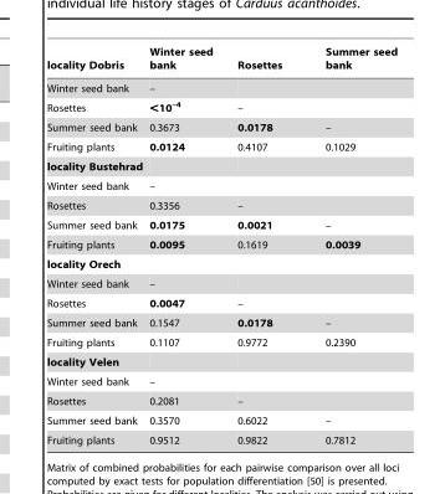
<table><thead><tr><td>locality Dobris</td><td>Winter seed bank</td><td>Rosettes</td><td>Summer seed bank</td></tr></thead><tbody><tr><td>Winter seed bank</td><td>–</td><td></td><td></td></tr><tr><td>Rosettes</td><td>&lt;10<sup>–4</sup></td><td>–</td><td></td></tr><tr><td>Summer seed bank</td><td>0.3673</td><td>0.0178</td><td>–</td></tr><tr><td>Fruiting plants</td><td>0.0124</td><td>0.4107</td><td>0.1029</td></tr><tr><td colspan="4">locality Bustehrad</td></tr><tr><td>Winter seed bank</td><td>–</td><td></td><td></td></tr><tr><td>Rosettes</td><td>0.3356</td><td>–</td><td></td></tr><tr><td>Summer seed bank</td><td>0.0175</td><td>0.0021</td><td>–</td></tr><tr><td>Fruiting plants</td><td>0.0095</td><td>0.1619</td><td>0.0039</td></tr><tr><td colspan="4">locality Orech</td></tr><tr><td>Winter seed bank</td><td>–</td><td></td><td></td></tr><tr><td>Rosettes</td><td>0.0047</td><td>–</td><td></td></tr><tr><td>Summer seed bank</td><td>0.1547</td><td>0.0178</td><td>–</td></tr><tr><td>Fruiting plants</td><td>0.1107</td><td>0.9772</td><td>0.2390</td></tr><tr><td colspan="4">locality Velen</td></tr><tr><td>Winter seed bank</td><td>–</td><td></td><td></td></tr><tr><td>Rosettes</td><td>0.2081</td><td>–</td><td></td></tr><tr><td>Summer seed bank</td><td>0.3570</td><td>0.6022</td><td>–</td></tr><tr><td>Fruiting plants</td><td>0.9512</td><td>0.9822</td><td>0.7812</td></tr></tbody></table>